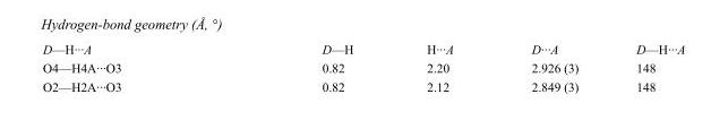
<table><tbody><tr><td>D—H···A</td><td>D—H</td><td>H···A</td><td>D···A</td><td>D—H···A</td></tr><tr><td>O4—H4A···O3</td><td>0.82</td><td>2.20</td><td>2.926 (3)</td><td>148</td></tr><tr><td>O2—H2A···O3</td><td>0.82</td><td>2.12</td><td>2.849 (3)</td><td>148</td></tr></tbody></table>